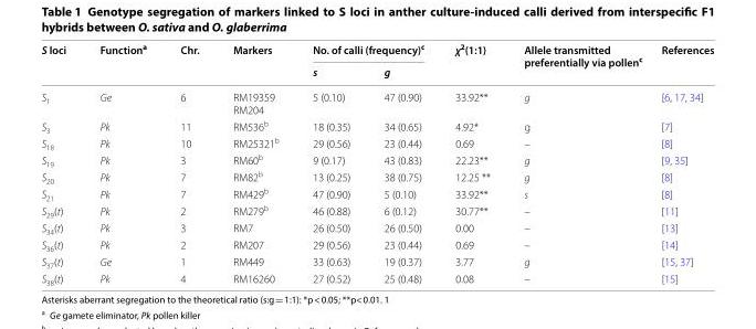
<table><thead><tr><td rowspan="2">S loci</td><td rowspan="2">Function<sup>a</sup></td><td rowspan="2">Chr.</td><td rowspan="2">Markers</td><td colspan="2">No. of calli (frequency)<sup>c</sup></td><td rowspan="2">χ<sup>2</sup>(1:1)</td><td rowspan="2">Allele transmitted preferentially via pollen<sup>c</sup></td><td rowspan="2">References</td></tr><tr><td>s</td><td>g</td></tr></thead><tbody><tr><td>S<sub>1</sub></td><td>Ge</td><td>6</td><td>RM19359 RM204</td><td>5 (0.10)</td><td>47 (0.90)</td><td>33.92**</td><td>g</td><td>[6, 17, 34]</td></tr><tr><td>S<sub>3</sub></td><td>Pk</td><td>11</td><td>RM536<sup>b</sup></td><td>18 (0.35)</td><td>34 (0.65)</td><td>4.92*</td><td>g</td><td>[7]</td></tr><tr><td>S<sub>18</sub></td><td>Pk</td><td>10</td><td>RM25321<sup>b</sup></td><td>29 (0.56)</td><td>23 (0.44)</td><td>0.69</td><td>–</td><td>[8]</td></tr><tr><td>S<sub>19</sub></td><td>Pk</td><td>3</td><td>RM60<sup>b</sup></td><td>9 (0.17)</td><td>43 (0.83)</td><td>22.23**</td><td>g</td><td>[9, 35]</td></tr><tr><td>S<sub>20</sub></td><td>Pk</td><td>7</td><td>RM82<sup>b</sup></td><td>13 (0.25)</td><td>38 (0.75)</td><td>12.25 **</td><td>g</td><td>[8]</td></tr><tr><td>S<sub>21</sub></td><td>Pk</td><td>7</td><td>RM429<sup>b</sup></td><td>47 (0.90)</td><td>5 (0.10)</td><td>33.92**</td><td>s</td><td>[8]</td></tr><tr><td>S<sub>29</sub>(t)</td><td>Pk</td><td>2</td><td>RM279<sup>b</sup></td><td>46 (0.88)</td><td>6 (0.12)</td><td>30.77**</td><td>–</td><td>[11]</td></tr><tr><td>S<sub>34</sub>(t)</td><td>Pk</td><td>3</td><td>RM7</td><td>26 (0.50)</td><td>26 (0.50)</td><td>0.00</td><td>–</td><td>[13]</td></tr><tr><td>S<sub>36</sub>(t)</td><td>Pk</td><td>2</td><td>RM207</td><td>29 (0.56)</td><td>23 (0.44)</td><td>0.69</td><td>–</td><td>[14]</td></tr><tr><td>S<sub>37</sub>(t)</td><td>Ge</td><td>1</td><td>RM449</td><td>33 (0.63)</td><td>19 (0.37)</td><td>3.77</td><td>g</td><td>[15, 37]</td></tr><tr><td>S<sub>38</sub>(t)</td><td>Pk</td><td>4</td><td>RM16260</td><td>27 (0.52)</td><td>25 (0.48)</td><td>0.08</td><td>–</td><td>[15]</td></tr></tbody></table>